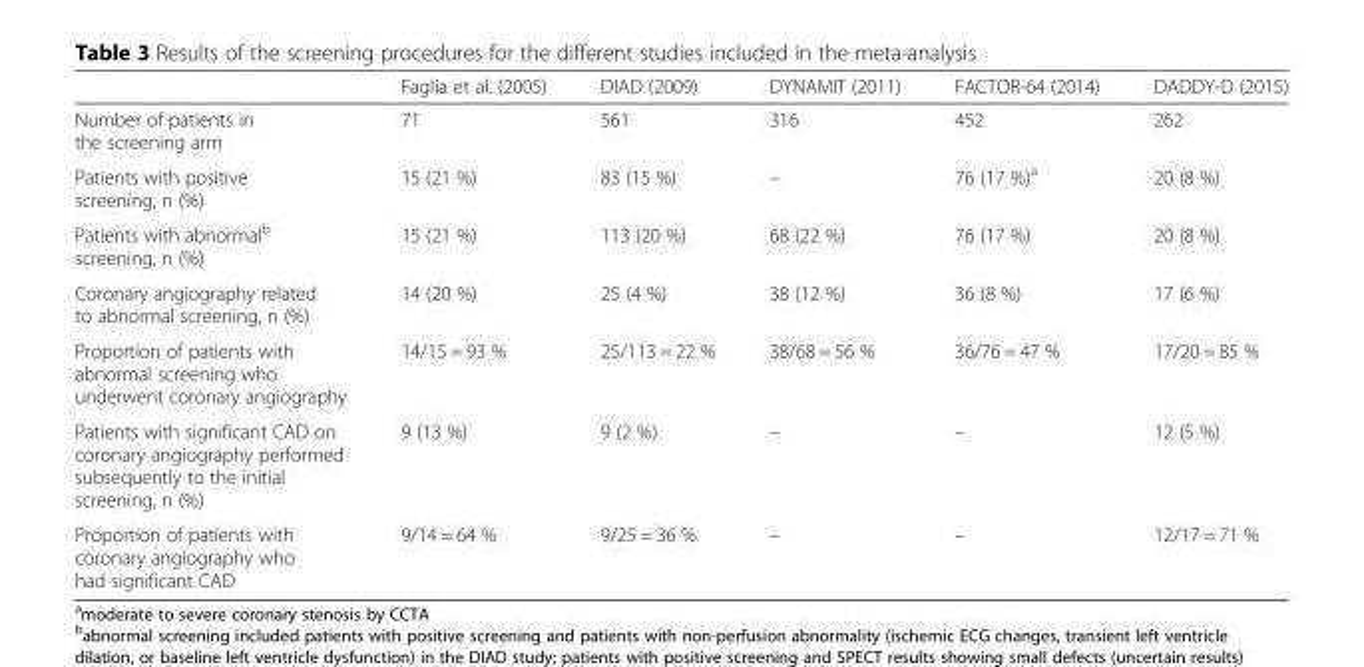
<table><thead><tr><td></td><td>Faglia et al. (2005)</td><td>DIAD (2009)</td><td>DYNAMIT (2011)</td><td>FACTOR-64 (2014)</td><td>DADDY-D (2015)</td></tr></thead><tbody><tr><td>Number of patients in the screening arm</td><td>71</td><td>561</td><td>316</td><td>452</td><td>262</td></tr><tr><td>Patients with positive screening, n (%)</td><td>15 (21 %)</td><td>83 (15 %)</td><td>–</td><td>76 (17 %)<sup>a</sup></td><td>20 (8 %)</td></tr><tr><td>Patients with abnormal<sup>b</sup> screening, n (%)</td><td>15 (21 %)</td><td>113 (20 %)</td><td>68 (22 %)</td><td>76 (17 %)</td><td>20 (8 %)</td></tr><tr><td>Coronary angiography related to abnormal screening, n (%)</td><td>14 (20 %)</td><td>25 (4 %)</td><td>38 (12 %)</td><td>36 (8 %)</td><td>17 (6 %)</td></tr><tr><td>Proportion of patients with abnormal screening who underwent coronary angiography</td><td>14/15 = 93 %</td><td>25/113 = 22 %</td><td>38/68 = 56 %</td><td>36/76 = 47 %</td><td>17/20 = 85 %</td></tr><tr><td>Patients with significant CAD on coronary angiography performed subsequently to the initial screening, n (%)</td><td>9 (13 %)</td><td>9 (2 %)</td><td>–</td><td>–</td><td>12 (5 %)</td></tr><tr><td>Proportion of patients with coronary angiography who had significant CAD</td><td>9/14 = 64 %</td><td>9/25 = 36 %</td><td>–</td><td>–</td><td>12/17 = 71 %</td></tr></tbody></table>